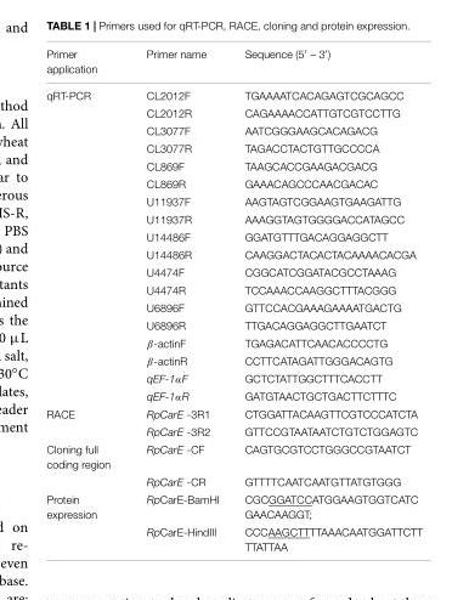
<table><thead><tr><td>Primer application</td><td>Primer name</td><td>Sequence (5′ – 3′)</td></tr></thead><tbody><tr><td rowspan="18">qRT-PCR</td><td>CL2012F</td><td>TGAAAATCACAGAGTCGCAGCC</td></tr><tr><td>CL2012R</td><td>CAGAAAACCATTGTCGTCCTTG</td></tr><tr><td>CL3077F</td><td>AATCGGGAAGCACAGACG</td></tr><tr><td>CL3077R</td><td>TAGACCTACTGTTGCCCCA</td></tr><tr><td>CL869F</td><td>TAAGCACCGAAGACGACG</td></tr><tr><td>CL869R</td><td>GAAACAGCCCAACGACAC</td></tr><tr><td>U11937F</td><td>AAGTAGTCGGAAGTGAAGATTG</td></tr><tr><td>U11937R</td><td>AAAGGTAGTGGGGACCATAGCC</td></tr><tr><td>U14486F</td><td>GGATGTTTGACAGGAGGCTT</td></tr><tr><td>U14486R</td><td>CAAGGACTACACTACAAAACACGA</td></tr><tr><td>U4474F</td><td>CGGCATCGGATACGCCTAAAG</td></tr><tr><td>U4474R</td><td>TCCAAACCAAGGCTTTACGGG</td></tr><tr><td>U6896F</td><td>GTTCCACGAAAGAAAATGACTG</td></tr><tr><td>U6896R</td><td>TTGACAGGAGGCTTGAATCT</td></tr><tr><td>β-actinF</td><td>TGAGACATTCAACACCCCTG</td></tr><tr><td>β-actinR</td><td>CCTTCATAGATTGGGACAGTG</td></tr><tr><td>qEF-1αF</td><td>GCTCTATTGGCTTTCACCTT</td></tr><tr><td>qEF-1αR</td><td>GATGTAACTGCTGACTTCTTTC</td></tr><tr><td rowspan="2">RACE</td><td>RpCarE -3R1</td><td>CTGGATTACAAGTTCGTCCCATCTA</td></tr><tr><td>RpCarE -3R2</td><td>GTTCCGTAATAATCTGTCTGGAGTC</td></tr><tr><td rowspan="2">Cloning full coding region</td><td>RpCarE -CF</td><td>CAGTGCGTCCTGGGCCGTAATCT</td></tr><tr><td>RpCarE -CR</td><td>GTTTTCAATCAATGTTATGTGGG</td></tr><tr><td rowspan="2">Protein expression</td><td>RpCarE-BamHI</td><td>CGCGGATCCATGGAAGTGGTCATC GAACAAGGT;</td></tr><tr><td>RpCarE-HindIII</td><td>CCCAAGCTTTTAAACAATGGATTCTT TTATTAA</td></tr></tbody></table>